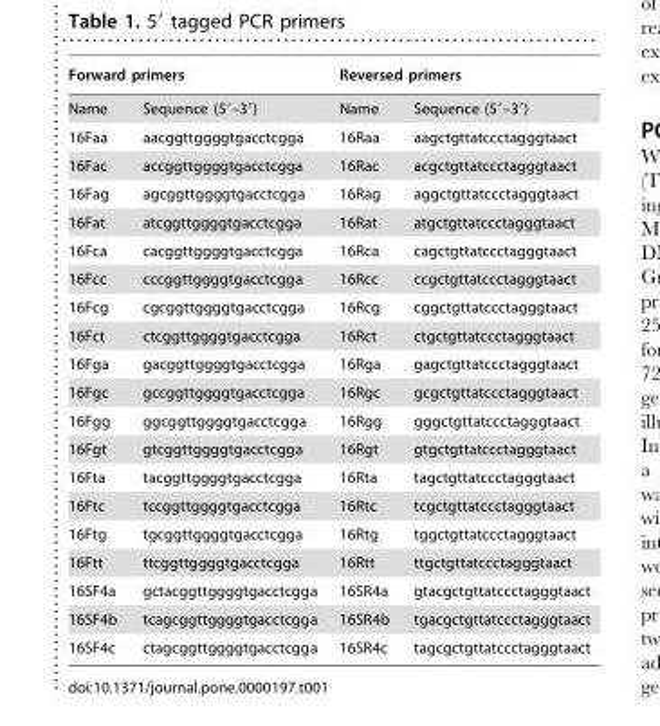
<table><thead><tr><td colspan="2">Forward primers</td><td colspan="2">Reversed primers</td></tr><tr><td>Name</td><td>Sequence (5′–3′)</td><td>Name</td><td>Sequence (5′–3′)</td></tr></thead><tbody><tr><td>16Faa</td><td>aacggttggggtgacctcgga</td><td>16Raa</td><td>aagctgttatccctagggtaact</td></tr><tr><td>16Fac</td><td>accggttggggtgacctcgga</td><td>16Rac</td><td>acgctgttatccctagggtaact</td></tr><tr><td>16Fag</td><td>agcggttggggtgacctcgga</td><td>16Rag</td><td>aggctgttatccctagggtaact</td></tr><tr><td>16Fat</td><td>atcggttggggtgacctcgga</td><td>16Rat</td><td>atgctgttatccctagggtaact</td></tr><tr><td>16Fca</td><td>cacggttggggtgacctcgga</td><td>16Rca</td><td>cagctgttatccctagggtaact</td></tr><tr><td>16Fcc</td><td>cccggttggggtgacctcgga</td><td>16Rcc</td><td>ccgctgttatccctagggtaact</td></tr><tr><td>16Fcg</td><td>cgcggttggggtgacctcgga</td><td>16Rcg</td><td>cggctgttatccctagggtaact</td></tr><tr><td>16Fct</td><td>ctcggttggggtgacctcgga</td><td>16Rct</td><td>ctgctgttatccctagggtaact</td></tr><tr><td>16Fga</td><td>gacggttggggtgacctcgga</td><td>16Rga</td><td>gagctgttatccctagggtaact</td></tr><tr><td>16Fgc</td><td>gccggttggggtgacctcgga</td><td>16Rgc</td><td>gcgctgttatccctagggtaact</td></tr><tr><td>16Fgg</td><td>ggcggttggggtgacctcgga</td><td>16Rgg</td><td>gggctgttatccctagggtaact</td></tr><tr><td>16Fgt</td><td>gtcggttggggtgacctcgga</td><td>16Rgt</td><td>gtgctgttatccctagggtaact</td></tr><tr><td>16Fta</td><td>tacggttggggtgacctcgga</td><td>16Rta</td><td>tagctgttatccctagggtaact</td></tr><tr><td>16Ftc</td><td>tccggttggggtgacctcgga</td><td>16Rtc</td><td>tcgctgttatccctagggtaact</td></tr><tr><td>16Ftg</td><td>tgcggttggggtgacctcgga</td><td>16Rtg</td><td>tggctgttatccctagggtaact</td></tr><tr><td>16Ftt</td><td>ttcggttggggtgacctcgga</td><td>16Rtt</td><td>ttgctgttatccctagggtaact</td></tr><tr><td>16SF4a</td><td>gctacggttggggtgacctcgga</td><td>16SR4a</td><td>gtacgctgttatccctagggtaact</td></tr><tr><td>16SF4b</td><td>tcagcggttggggtgacctcgga</td><td>16SR4b</td><td>tgacgctgttatccctagggtaact</td></tr><tr><td>16SF4c</td><td>ctagcggttggggtgacctcgga</td><td>16SR4c</td><td>tagcgctgttatccctagggtaact</td></tr></tbody></table>